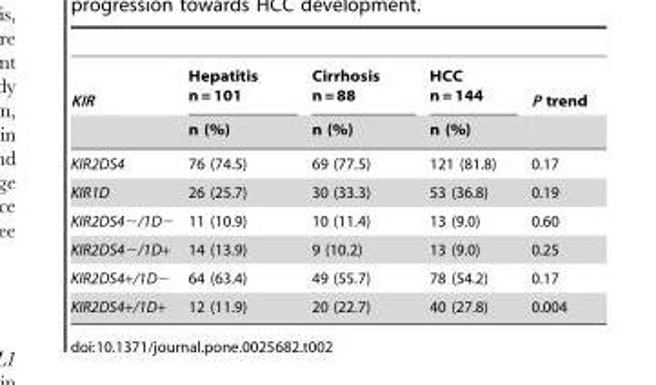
<table><thead><tr><td rowspan="2">KIR</td><td rowspan="2">Hepatitis n = 101 n (%)</td><td rowspan="2">Cirrhosis n = 88 n (%)</td><td rowspan="2">HCC n = 144 n (%)</td><td rowspan="2">P trend</td></tr><tr></tr></thead><tbody><tr><td>KIR2DS4</td><td>76 (74.5)</td><td>69 (77.5)</td><td>121 (81.8)</td><td>0.17</td></tr><tr><td>KIR1D</td><td>26 (25.7)</td><td>30 (33.3)</td><td>53 (36.8)</td><td>0.19</td></tr><tr><td>KIR2DS4−/1D−</td><td>11 (10.9)</td><td>10 (11.4)</td><td>13 (9.0)</td><td>0.60</td></tr><tr><td>KIR2DS4−/1D+</td><td>14 (13.9)</td><td>9 (10.2)</td><td>13 (9.0)</td><td>0.25</td></tr><tr><td>KIR2DS4+/1D−</td><td>64 (63.4)</td><td>49 (55.7)</td><td>78 (54.2)</td><td>0.17</td></tr><tr><td>KIR2DS4+/1D+</td><td>12 (11.9)</td><td>20 (22.7)</td><td>40 (27.8)</td><td>0.004</td></tr></tbody></table>